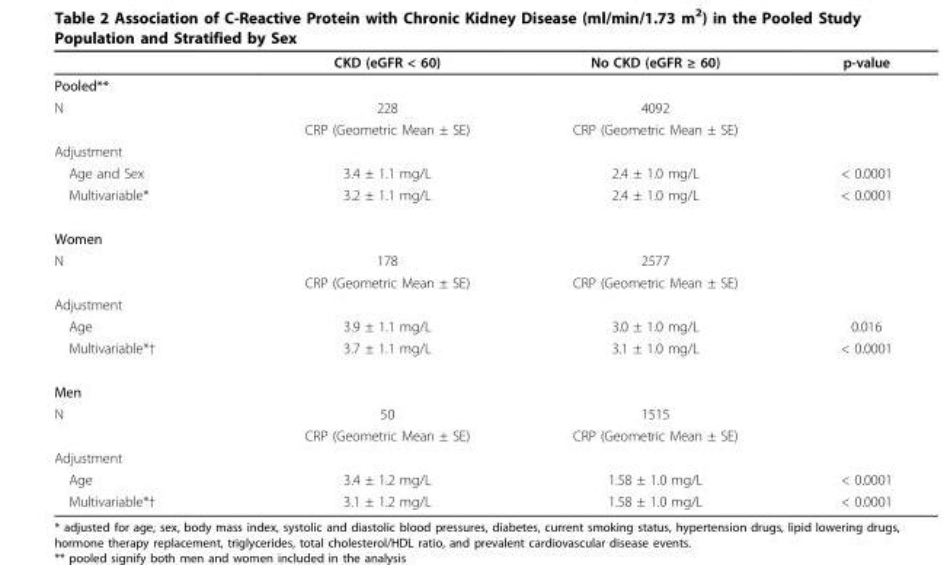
<table><thead><tr><td></td><td>CKD (eGFR &lt; 60)</td><td>No CKD (eGFR ≥ 60)</td><td>p-value</td></tr></thead><tbody><tr><td colspan="4">Pooled**</td></tr><tr><td rowspan="2">N</td><td>228</td><td>4092</td><td></td></tr><tr><td>CRP (Geometric Mean ± SE)</td><td>CRP (Geometric Mean ± SE)</td><td></td></tr><tr><td colspan="4">Adjustment</td></tr><tr><td>Age and Sex</td><td>3.4 ± 1.1 mg/L</td><td>2.4 ± 1.0 mg/L</td><td>&lt; 0.0001</td></tr><tr><td>Multivariable*</td><td>3.2 ± 1.1 mg/L</td><td>2.4 ± 1.0 mg/L</td><td>&lt; 0.0001</td></tr><tr><td colspan="4">Women</td></tr><tr><td rowspan="2">N</td><td>178</td><td>2577</td><td></td></tr><tr><td>CRP (Geometric Mean ± SE)</td><td>CRP (Geometric Mean ± SE)</td><td></td></tr><tr><td colspan="4">Adjustment</td></tr><tr><td>Age</td><td>3.9 ± 1.1 mg/L</td><td>3.0 ± 1.0 mg/L</td><td>0.016</td></tr><tr><td>Multivariable*†</td><td>3.7 ± 1.1 mg/L</td><td>3.1 ± 1.0 mg/L</td><td>&lt; 0.0001</td></tr><tr><td colspan="4">Men</td></tr><tr><td rowspan="2">N</td><td>50</td><td>1515</td><td></td></tr><tr><td>CRP (Geometric Mean ± SE)</td><td>CRP (Geometric Mean ± SE)</td><td></td></tr><tr><td colspan="4">Adjustment</td></tr><tr><td>Age</td><td>3.4 ± 1.2 mg/L</td><td>1.58 ± 1.0 mg/L</td><td>&lt; 0.0001</td></tr><tr><td>Multivariable*†</td><td>3.1 ± 1.2 mg/L</td><td>1.58 ± 1.0 mg/L</td><td>&lt; 0.0001</td></tr></tbody></table>